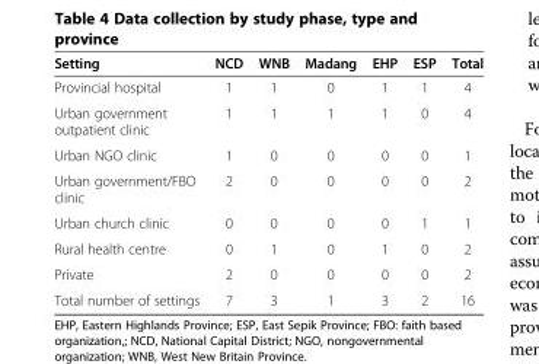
<table><thead><tr><td>Setting</td><td>NCD</td><td>WNB</td><td>Madang</td><td>EHP</td><td>ESP</td><td>Total</td></tr></thead><tbody><tr><td>Provincial hospital</td><td>1</td><td>1</td><td>0</td><td>1</td><td>1</td><td>4</td></tr><tr><td>Urban government outpatient clinic</td><td>1</td><td>1</td><td>1</td><td>1</td><td>0</td><td>4</td></tr><tr><td>Urban NGO clinic</td><td>1</td><td>0</td><td>0</td><td>0</td><td>0</td><td>1</td></tr><tr><td>Urban government/FBO clinic</td><td>2</td><td>0</td><td>0</td><td>0</td><td>0</td><td>2</td></tr><tr><td>Urban church clinic</td><td>0</td><td>0</td><td>0</td><td>0</td><td>1</td><td>1</td></tr><tr><td>Rural health centre</td><td>0</td><td>1</td><td>0</td><td>1</td><td>0</td><td>2</td></tr><tr><td>Private</td><td>2</td><td>0</td><td>0</td><td>0</td><td>0</td><td>2</td></tr><tr><td>Total number of settings</td><td>7</td><td>3</td><td>1</td><td>3</td><td>2</td><td>16</td></tr></tbody></table>